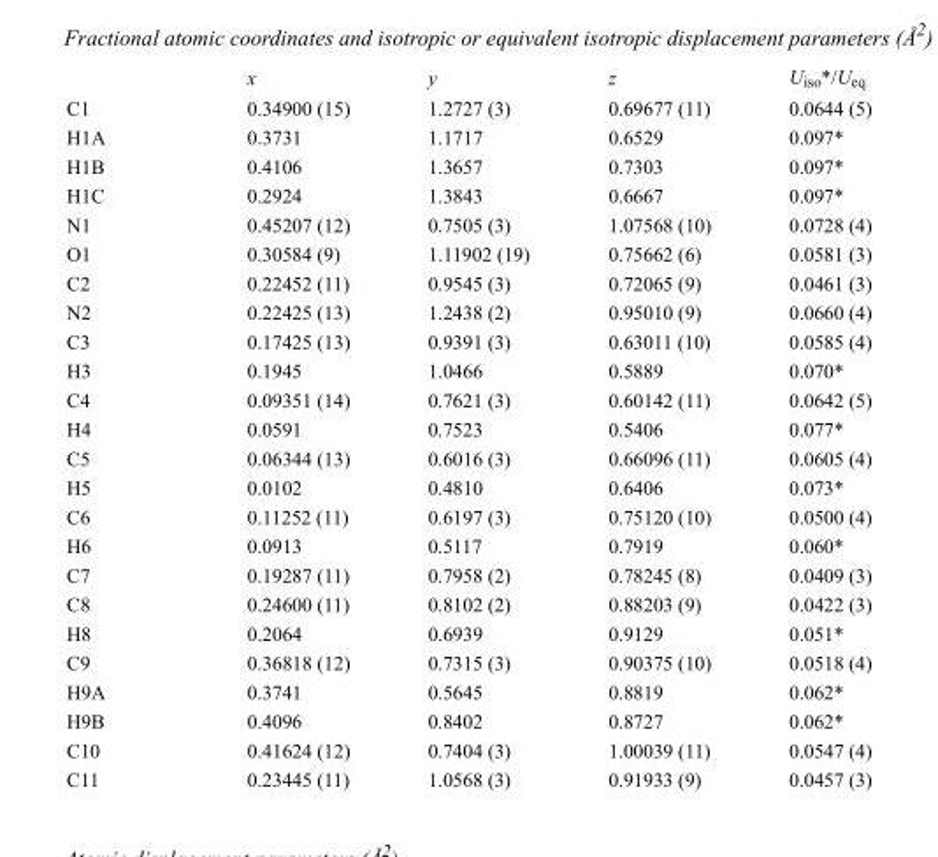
<table><thead><tr><td></td><td>x</td><td>y</td><td>z</td><td>U<sub>iso</sub>*/U<sub>eq</sub></td></tr></thead><tbody><tr><td>C1</td><td>0.34900 (15)</td><td>1.2727 (3)</td><td>0.69677 (11)</td><td>0.0644 (5)</td></tr><tr><td>H1A</td><td>0.3731</td><td>1.1717</td><td>0.6529</td><td>0.097*</td></tr><tr><td>H1B</td><td>0.4106</td><td>1.3657</td><td>0.7303</td><td>0.097*</td></tr><tr><td>H1C</td><td>0.2924</td><td>1.3843</td><td>0.6667</td><td>0.097*</td></tr><tr><td>N1</td><td>0.45207 (12)</td><td>0.7505 (3)</td><td>1.07568 (10)</td><td>0.0728 (4)</td></tr><tr><td>O1</td><td>0.30584 (9)</td><td>1.11902 (19)</td><td>0.75662 (6)</td><td>0.0581 (3)</td></tr><tr><td>C2</td><td>0.22452 (11)</td><td>0.9545 (3)</td><td>0.72065 (9)</td><td>0.0461 (3)</td></tr><tr><td>N2</td><td>0.22425 (13)</td><td>1.2438 (2)</td><td>0.95010 (9)</td><td>0.0660 (4)</td></tr><tr><td>C3</td><td>0.17425 (13)</td><td>0.9391 (3)</td><td>0.63011 (10)</td><td>0.0585 (4)</td></tr><tr><td>H3</td><td>0.1945</td><td>1.0466</td><td>0.5889</td><td>0.070*</td></tr><tr><td>C4</td><td>0.09351 (14)</td><td>0.7621 (3)</td><td>0.60142 (11)</td><td>0.0642 (5)</td></tr><tr><td>H4</td><td>0.0591</td><td>0.7523</td><td>0.5406</td><td>0.077*</td></tr><tr><td>C5</td><td>0.06344 (13)</td><td>0.6016 (3)</td><td>0.66096 (11)</td><td>0.0605 (4)</td></tr><tr><td>H5</td><td>0.0102</td><td>0.4810</td><td>0.6406</td><td>0.073*</td></tr><tr><td>C6</td><td>0.11252 (11)</td><td>0.6197 (3)</td><td>0.75120 (10)</td><td>0.0500 (4)</td></tr><tr><td>H6</td><td>0.0913</td><td>0.5117</td><td>0.7919</td><td>0.060*</td></tr><tr><td>C7</td><td>0.19287 (11)</td><td>0.7958 (2)</td><td>0.78245 (8)</td><td>0.0409 (3)</td></tr><tr><td>C8</td><td>0.24600 (11)</td><td>0.8102 (2)</td><td>0.88203 (9)</td><td>0.0422 (3)</td></tr><tr><td>H8</td><td>0.2064</td><td>0.6939</td><td>0.9129</td><td>0.051*</td></tr><tr><td>C9</td><td>0.36818 (12)</td><td>0.7315 (3)</td><td>0.90375 (10)</td><td>0.0518 (4)</td></tr><tr><td>H9A</td><td>0.3741</td><td>0.5645</td><td>0.8819</td><td>0.062*</td></tr><tr><td>H9B</td><td>0.4096</td><td>0.8402</td><td>0.8727</td><td>0.062*</td></tr><tr><td>C10</td><td>0.41624 (12)</td><td>0.7404 (3)</td><td>1.00039 (11)</td><td>0.0547 (4)</td></tr><tr><td>C11</td><td>0.23445 (11)</td><td>1.0568 (3)</td><td>0.91933 (9)</td><td>0.0457 (3)</td></tr></tbody></table>